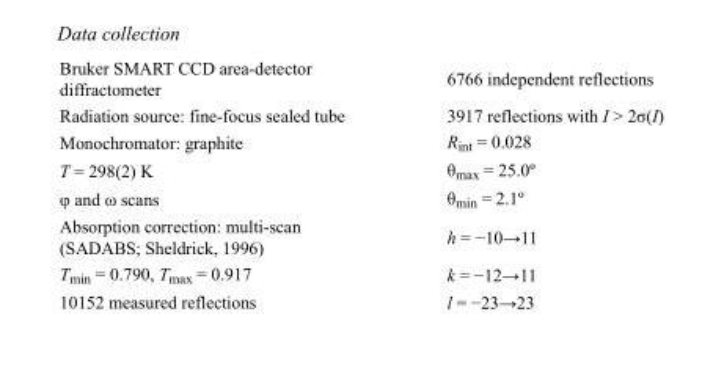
<table><tbody><tr><td>Bruker SMART CCD area-detector diffractometer</td><td>6766 independent reflections</td></tr><tr><td>Radiation source: fine-focus sealed tube</td><td>3917 reflections with I &gt; 2σ(I)</td></tr><tr><td>Monochromator: graphite</td><td>R<sub>int</sub> = 0.028</td></tr><tr><td>T = 298(2) K</td><td>θ<sub>max</sub> = 25.0º</td></tr><tr><td>φ and ω scans</td><td>θ<sub>min</sub> = 2.1º</td></tr><tr><td>Absorption correction: multi-scan (SADABS; Sheldrick, 1996)</td><td>h = −10→11</td></tr><tr><td>T<sub>min</sub> = 0.790, T<sub>max</sub> = 0.917</td><td>k = −12→11</td></tr><tr><td>10152 measured reflections</td><td>l = −23→23</td></tr></tbody></table>